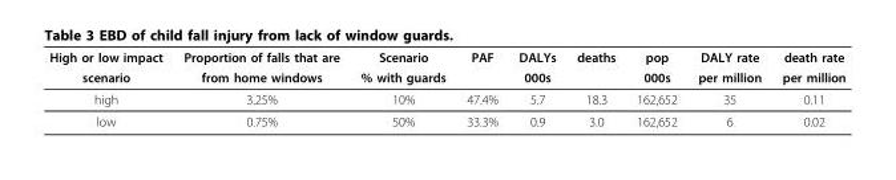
<table><thead><tr><td rowspan="2">High or low impact scenario</td><td rowspan="2">Proportion of falls that are from home windows</td><td rowspan="2">Scenario % with guards</td><td rowspan="2">PAF</td><td rowspan="2">DALYs 000s</td><td rowspan="2">deaths</td><td rowspan="2">pop 000s</td><td rowspan="2">DALY rate per million</td><td rowspan="2">death rate per million</td></tr><tr></tr></thead><tbody><tr><td>high</td><td>3.25%</td><td>10%</td><td>47.4%</td><td>5.7</td><td>18.3</td><td>162,652</td><td>35</td><td>0.11</td></tr><tr><td>low</td><td>0.75%</td><td>50%</td><td>33.3%</td><td>0.9</td><td>3.0</td><td>162,652</td><td>6</td><td>0.02</td></tr></tbody></table>